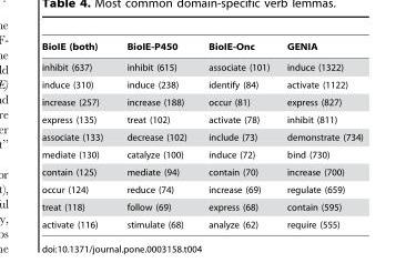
<table><thead><tr><td>BioIE (both)</td><td>BioIE-P450</td><td>BioIE-Onc</td><td>GENIA</td></tr></thead><tbody><tr><td>inhibit (637)</td><td>inhibit (615)</td><td>associate (101)</td><td>induce (1322)</td></tr><tr><td>induce (310)</td><td>induce (238)</td><td>identify (84)</td><td>activate (1122)</td></tr><tr><td>increase (257)</td><td>increase (188)</td><td>occur (81)</td><td>express (827)</td></tr><tr><td>express (135)</td><td>treat (102)</td><td>activate (78)</td><td>inhibit (811)</td></tr><tr><td>associate (133)</td><td>decrease (102)</td><td>include (73)</td><td>demonstrate (734)</td></tr><tr><td>mediate (130)</td><td>catalyze (100)</td><td>induce (72)</td><td>bind (730)</td></tr><tr><td>contain (125)</td><td>mediate (94)</td><td>contain (70)</td><td>increase (700)</td></tr><tr><td>occur (124)</td><td>reduce (74)</td><td>increase (69)</td><td>regulate (659)</td></tr><tr><td>treat (118)</td><td>follow (69)</td><td>express (68)</td><td>contain (595)</td></tr><tr><td>activate (116)</td><td>stimulate (68)</td><td>analyze (62)</td><td>require (555)</td></tr></tbody></table>